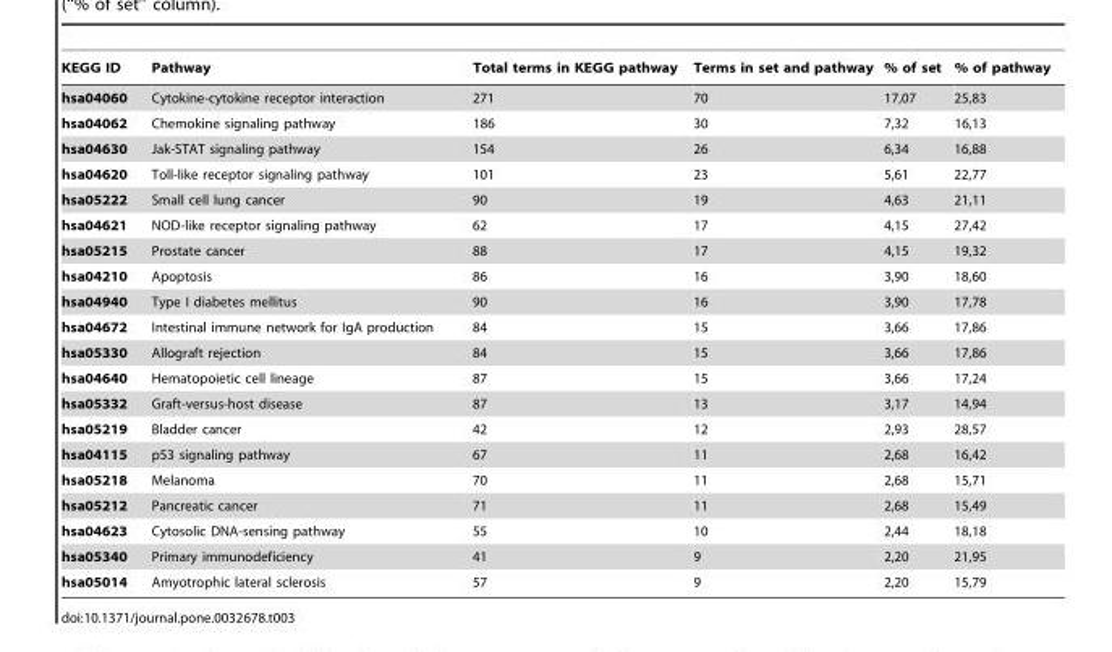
<table><thead><tr><td>KEGG ID</td><td>Pathway</td><td>Total terms in KEGG pathway</td><td>Terms in set and pathway</td><td>% of set</td><td>% of pathway</td></tr></thead><tbody><tr><td>hsa04060</td><td>Cytokine-cytokine receptor interaction</td><td>271</td><td>70</td><td>17,07</td><td>25,83</td></tr><tr><td>hsa04062</td><td>Chemokine signaling pathway</td><td>186</td><td>30</td><td>7,32</td><td>16,13</td></tr><tr><td>hsa04630</td><td>Jak-STAT signaling pathway</td><td>154</td><td>26</td><td>6,34</td><td>16,88</td></tr><tr><td>hsa04620</td><td>Toll-like receptor signaling pathway</td><td>101</td><td>23</td><td>5,61</td><td>22,77</td></tr><tr><td>hsa05222</td><td>Small cell lung cancer</td><td>90</td><td>19</td><td>4,63</td><td>21,11</td></tr><tr><td>hsa04621</td><td>NOD-like receptor signaling pathway</td><td>62</td><td>17</td><td>4,15</td><td>27,42</td></tr><tr><td>hsa05215</td><td>Prostate cancer</td><td>88</td><td>17</td><td>4,15</td><td>19,32</td></tr><tr><td>hsa04210</td><td>Apoptosis</td><td>86</td><td>16</td><td>3,90</td><td>18,60</td></tr><tr><td>hsa04940</td><td>Type I diabetes mellitus</td><td>90</td><td>16</td><td>3,90</td><td>17,78</td></tr><tr><td>hsa04672</td><td>Intestinal immune network for IgA production</td><td>84</td><td>15</td><td>3,66</td><td>17,86</td></tr><tr><td>hsa05330</td><td>Allograft rejection</td><td>84</td><td>15</td><td>3,66</td><td>17,86</td></tr><tr><td>hsa04640</td><td>Hematopoietic cell lineage</td><td>87</td><td>15</td><td>3,66</td><td>17,24</td></tr><tr><td>hsa05332</td><td>Graft-versus-host disease</td><td>87</td><td>13</td><td>3,17</td><td>14,94</td></tr><tr><td>hsa05219</td><td>Bladder cancer</td><td>42</td><td>12</td><td>2,93</td><td>28,57</td></tr><tr><td>hsa04115</td><td>p53 signaling pathway</td><td>67</td><td>11</td><td>2,68</td><td>16,42</td></tr><tr><td>hsa05218</td><td>Melanoma</td><td>70</td><td>11</td><td>2,68</td><td>15,71</td></tr><tr><td>hsa05212</td><td>Pancreatic cancer</td><td>71</td><td>11</td><td>2,68</td><td>15,49</td></tr><tr><td>hsa04623</td><td>Cytosolic DNA-sensing pathway</td><td>55</td><td>10</td><td>2,44</td><td>18,18</td></tr><tr><td>hsa05340</td><td>Primary immunodeficiency</td><td>41</td><td>9</td><td>2,20</td><td>21,95</td></tr><tr><td>hsa05014</td><td>Amyotrophic lateral sclerosis</td><td>57</td><td>9</td><td>2,20</td><td>15,79</td></tr></tbody></table>